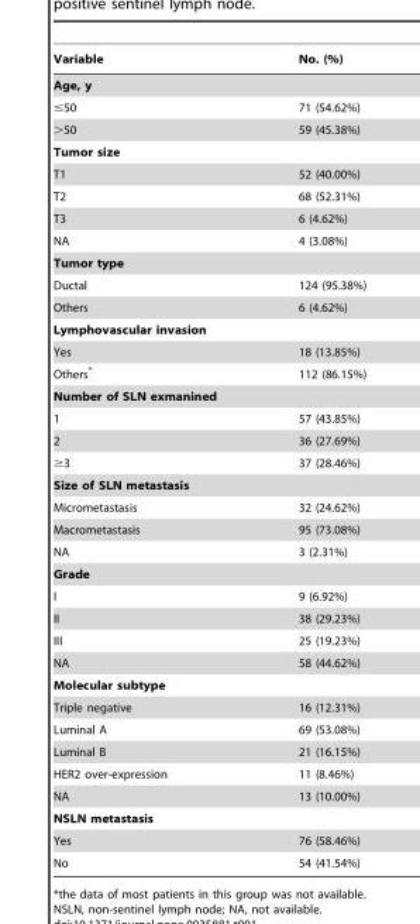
<table><thead><tr><td>Variable</td><td>No. (%)</td></tr></thead><tbody><tr><td colspan="2">Age, y</td></tr><tr><td>≤50</td><td>71 (54.62%)</td></tr><tr><td>&gt;50</td><td>59 (45.38%)</td></tr><tr><td colspan="2">Tumor size</td></tr><tr><td>T1</td><td>52 (40.00%)</td></tr><tr><td>T2</td><td>68 (52.31%)</td></tr><tr><td>T3</td><td>6 (4.62%)</td></tr><tr><td>NA</td><td>4 (3.08%)</td></tr><tr><td colspan="2">Tumor type</td></tr><tr><td>Ductal</td><td>124 (95.38%)</td></tr><tr><td>Others</td><td>6 (4.62%)</td></tr><tr><td colspan="2">Lymphovascular invasion</td></tr><tr><td>Yes</td><td>18 (13.85%)</td></tr><tr><td>Others*</td><td>112 (86.15%)</td></tr><tr><td colspan="2">Number of SLN exmanined</td></tr><tr><td>1</td><td>57 (43.85%)</td></tr><tr><td>2</td><td>36 (27.69%)</td></tr><tr><td>≥3</td><td>37 (28.46%)</td></tr><tr><td colspan="2">Size of SLN metastasis</td></tr><tr><td>Micrometastasis</td><td>32 (24.62%)</td></tr><tr><td>Macrometastasis</td><td>95 (73.08%)</td></tr><tr><td>NA</td><td>3 (2.31%)</td></tr><tr><td colspan="2">Grade</td></tr><tr><td>I</td><td>9 (6.92%)</td></tr><tr><td>II</td><td>38 (29.23%)</td></tr><tr><td>III</td><td>25 (19.23%)</td></tr><tr><td>NA</td><td>58 (44.62%)</td></tr><tr><td colspan="2">Molecular subtype</td></tr><tr><td>Triple negative</td><td>16 (12.31%)</td></tr><tr><td>Luminal A</td><td>69 (53.08%)</td></tr><tr><td>Luminal B</td><td>21 (16.15%)</td></tr><tr><td>HER2 over-expression</td><td>11 (8.46%)</td></tr><tr><td>NA</td><td>13 (10.00%)</td></tr><tr><td colspan="2">NSLN metastasis</td></tr><tr><td>Yes</td><td>76 (58.46%)</td></tr><tr><td>No</td><td>54 (41.54%)</td></tr></tbody></table>